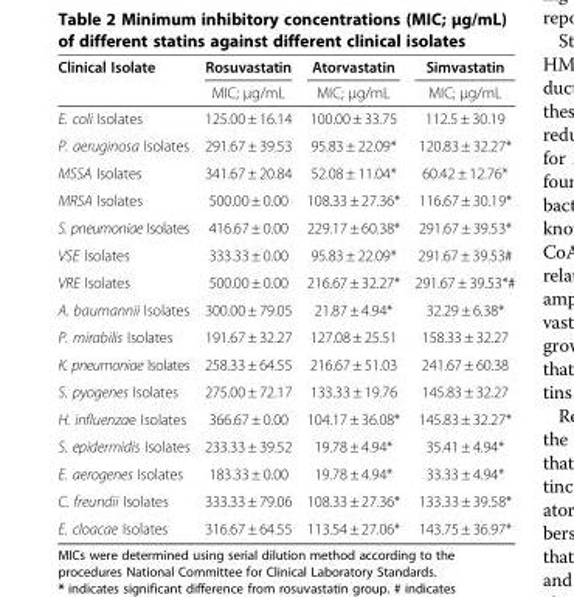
<table><thead><tr><td rowspan="2">Clinical Isolate</td><td rowspan="2">Rosuvastatin MIC; μg/mL</td><td rowspan="2">Atorvastatin MIC; μg/mL</td><td rowspan="2">Simvastatin MIC; μg/mL</td></tr><tr></tr></thead><tbody><tr><td>E. coli Isolates</td><td>125.00 ± 16.14</td><td>100.00 ± 33.75</td><td>112.5 ± 30.19</td></tr><tr><td>P. aeruginosa Isolates</td><td>291.67 ± 39.53</td><td>95.83 ± 22.09*</td><td>120.83 ± 32.27*</td></tr><tr><td>MSSA Isolates</td><td>341.67 ± 20.84</td><td>52.08 ± 11.04*</td><td>60.42 ± 12.76*</td></tr><tr><td>MRSA Isolates</td><td>500.00 ± 0.00</td><td>108.33 ± 27.36*</td><td>116.67 ± 30.19*</td></tr><tr><td>S. pneumoniae Isolates</td><td>416.67 ± 0.00</td><td>229.17 ± 60.38*</td><td>291.67 ± 39.53*</td></tr><tr><td>VSE Isolates</td><td>333.33 ± 0.00</td><td>95.83 ± 22.09*</td><td>291.67 ± 39.53#</td></tr><tr><td>VRE Isolates</td><td>500.00 ± 0.00</td><td>216.67 ± 32.27*</td><td>291.67 ± 39.53*#</td></tr><tr><td>A. baumannii Isolates</td><td>300.00 ± 79.05</td><td>21.87 ± 4.94*</td><td>32.29 ± 6.38*</td></tr><tr><td>P. mirabilis Isolates</td><td>191.67 ± 32.27</td><td>127.08 ± 25.51</td><td>158.33 ± 32.27</td></tr><tr><td>K. pneumoniae Isolates</td><td>258.33 ± 64.55</td><td>216.67 ± 51.03</td><td>241.67 ± 60.38</td></tr><tr><td>S. pyogenes Isolates</td><td>275.00 ± 72.17</td><td>133.33 ± 19.76</td><td>145.83 ± 32.27</td></tr><tr><td>H. influenzae Isolates</td><td>366.67 ± 0.00</td><td>104.17 ± 36.08*</td><td>145.83 ± 32.27*</td></tr><tr><td>S. epidermidis Isolates</td><td>233.33 ± 39.52</td><td>19.78 ± 4.94*</td><td>35.41 ± 4.94*</td></tr><tr><td>E. aerogenes Isolates</td><td>183.33 ± 0.00</td><td>19.78 ± 4.94*</td><td>33.33 ± 4.94*</td></tr><tr><td>C. freundii Isolates</td><td>333.33 ± 79.06</td><td>108.33 ± 27.36*</td><td>133.33 ± 39.58*</td></tr><tr><td>E. cloacae Isolates</td><td>316.67 ± 64.55</td><td>113.54 ± 27.06*</td><td>143.75 ± 36.97*</td></tr></tbody></table>